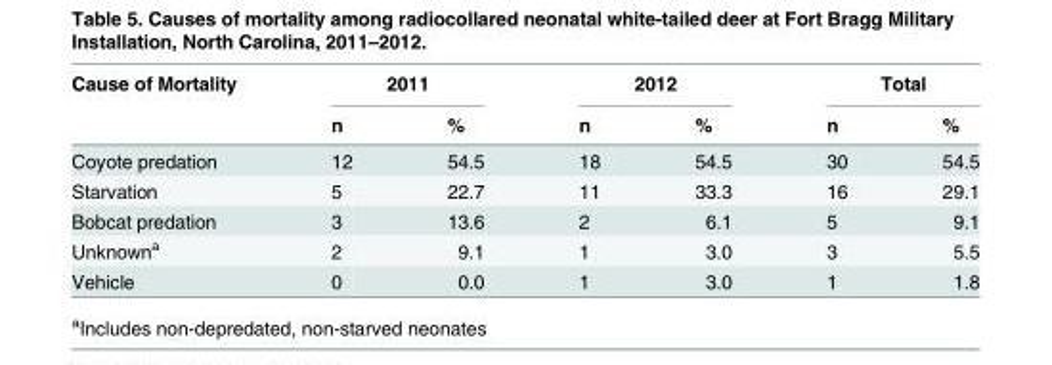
<table><thead><tr><td rowspan="2">Cause of Mortality</td><td colspan="2">2011</td><td colspan="2">2012</td><td colspan="2">Total</td></tr><tr><td>n</td><td>%</td><td>n</td><td>%</td><td>n</td><td>%</td></tr></thead><tbody><tr><td>Coyote predation</td><td>12</td><td>54.5</td><td>18</td><td>54.5</td><td>30</td><td>54.5</td></tr><tr><td>Starvation</td><td>5</td><td>22.7</td><td>11</td><td>33.3</td><td>16</td><td>29.1</td></tr><tr><td>Bobcat predation</td><td>3</td><td>13.6</td><td>2</td><td>6.1</td><td>5</td><td>9.1</td></tr><tr><td>Unknown<sup>a</sup></td><td>2</td><td>9.1</td><td>1</td><td>3.0</td><td>3</td><td>5.5</td></tr><tr><td>Vehicle</td><td>0</td><td>0.0</td><td>1</td><td>3.0</td><td>1</td><td>1.8</td></tr></tbody></table>